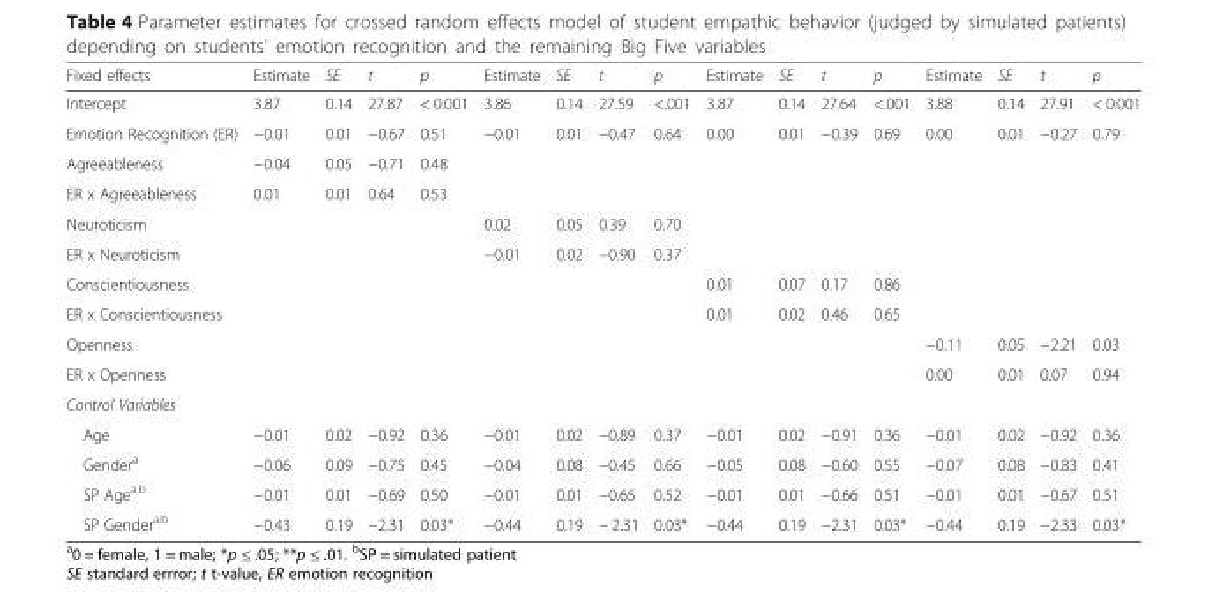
<table><thead><tr><td>Fixed effects</td><td>Estimate</td><td>SE</td><td>t</td><td>p</td><td>Estimate</td><td>SE</td><td>t</td><td>p</td><td>Estimate</td><td>SE</td><td>t</td><td>p</td><td>Estimate</td><td>SE</td><td>t</td><td>p</td></tr></thead><tbody><tr><td>Intercept</td><td>3.87</td><td>0.14</td><td>27.87</td><td>&lt; 0.001</td><td>3.86</td><td>0.14</td><td>27.59</td><td>&lt;.001</td><td>3.87</td><td>0.14</td><td>27.64</td><td>&lt;.001</td><td>3.88</td><td>0.14</td><td>27.91</td><td>&lt; 0.001</td></tr><tr><td>Emotion Recognition (ER)</td><td>−0.01</td><td>0.01</td><td>−0.67</td><td>0.51</td><td>−0.01</td><td>0.01</td><td>−0.47</td><td>0.64</td><td>0.00</td><td>0.01</td><td>−0.39</td><td>0.69</td><td>0.00</td><td>0.01</td><td>−0.27</td><td>0.79</td></tr><tr><td>Agreeableness</td><td>−0.04</td><td>0.05</td><td>−0.71</td><td>0.48</td><td></td><td></td><td></td><td></td><td></td><td></td><td></td><td></td><td></td><td></td><td></td><td></td></tr><tr><td>ER x Agreeableness</td><td>0.01</td><td>0.01</td><td>0.64</td><td>0.53</td><td></td><td></td><td></td><td></td><td></td><td></td><td></td><td></td><td></td><td></td><td></td><td></td></tr><tr><td>Neuroticism</td><td></td><td></td><td></td><td></td><td>0.02</td><td>0.05</td><td>0.39</td><td>0.70</td><td></td><td></td><td></td><td></td><td></td><td></td><td></td><td></td></tr><tr><td>ER x Neuroticism</td><td></td><td></td><td></td><td></td><td>−0.01</td><td>0.02</td><td>−0.90</td><td>0.37</td><td></td><td></td><td></td><td></td><td></td><td></td><td></td><td></td></tr><tr><td>Conscientiousness</td><td></td><td></td><td></td><td></td><td></td><td></td><td></td><td></td><td>0.01</td><td>0.07</td><td>0.17</td><td>0.86</td><td></td><td></td><td></td><td></td></tr><tr><td>ER x Conscientiousness</td><td></td><td></td><td></td><td></td><td></td><td></td><td></td><td></td><td>0.01</td><td>0.02</td><td>0.46</td><td>0.65</td><td></td><td></td><td></td><td></td></tr><tr><td>Openness</td><td></td><td></td><td></td><td></td><td></td><td></td><td></td><td></td><td></td><td></td><td></td><td></td><td>−0.11</td><td>0.05</td><td>−2.21</td><td>0.03</td></tr><tr><td>ER x Openness</td><td></td><td></td><td></td><td></td><td></td><td></td><td></td><td></td><td></td><td></td><td></td><td></td><td>0.00</td><td>0.01</td><td>0.07</td><td>0.94</td></tr><tr><td colspan="17">Control Variables</td></tr><tr><td>Age</td><td>−0.01</td><td>0.02</td><td>−0.92</td><td>0.36</td><td>−0.01</td><td>0.02</td><td>−0.89</td><td>0.37</td><td>−0.01</td><td>0.02</td><td>−0.91</td><td>0.36</td><td>−0.01</td><td>0.02</td><td>−0.92</td><td>0.36</td></tr><tr><td>Gender<sup>a</sup></td><td>−0.06</td><td>0.09</td><td>−0.75</td><td>0.45</td><td>−0.04</td><td>0.08</td><td>−0.45</td><td>0.66</td><td>−0.05</td><td>0.08</td><td>−0.60</td><td>0.55</td><td>−0.07</td><td>0.08</td><td>−0.83</td><td>0.41</td></tr><tr><td>SP Age<sup>a,b</sup></td><td>−0.01</td><td>0.01</td><td>−0.69</td><td>0.50</td><td>−0.01</td><td>0.01</td><td>−0.65</td><td>0.52</td><td>−0.01</td><td>0.01</td><td>−0.66</td><td>0.51</td><td>−0.01</td><td>0.01</td><td>−0.67</td><td>0.51</td></tr><tr><td>SP Gender<sup>a,b</sup></td><td>−0.43</td><td>0.19</td><td>−2.31</td><td>0.03*</td><td>−0.44</td><td>0.19</td><td>− 2.31</td><td>0.03*</td><td>−0.44</td><td>0.19</td><td>−2.31</td><td>0.03*</td><td>−0.44</td><td>0.19</td><td>−2.33</td><td>0.03*</td></tr></tbody></table>